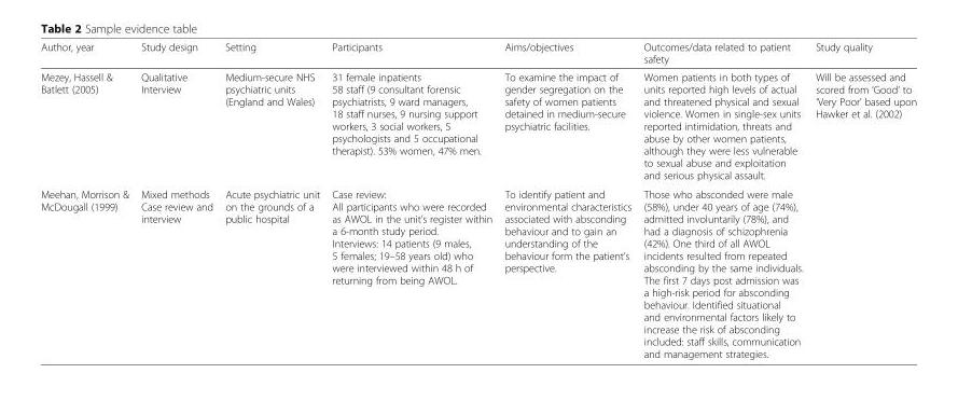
<table><thead><tr><td>Author, year</td><td>Study design</td><td>Setting</td><td>Participants</td><td>Aims/objectives</td><td>Outcomes/data related to patient safety</td><td>Study quality</td></tr></thead><tbody><tr><td>Mezey, Hassell &amp; Batlett (2005)</td><td>Qualitative Interview</td><td>Medium-secure NHS psychiatric units (England and Wales)</td><td>31 female inpatients 58 staff (9 consultant forensic psychiatrists, 9 ward managers, 18 staff nurses, 9 nursing support workers, 3 social workers, 5 psychologists and 5 occupational therapist). 53% women, 47% men.</td><td>To examine the impact of gender segregation on the safety of women patients detained in medium-secure psychiatric facilities.</td><td>Women patients in both types of units reported high levels of actual and threatened physical and sexual violence. Women in single-sex units reported intimidation, threats and abuse by other women patients, although they were less vulnerable to sexual abuse and exploitation and serious physical assault.</td><td>Will be assessed and scored from ‘Good’ to ‘Very Poor’ based upon Hawker et al. (2002)</td></tr><tr><td>Meehan, Morrison &amp; McDougall (1999)</td><td>Mixed methods Case review and interview</td><td>Acute psychiatric unit on the grounds of a public hospital</td><td>Case review: All participants who were recorded as AWOL in the unit’s register within a 6-month study period. Interviews: 14 patients (9 males, 5 females; 19–58 years old) who were interviewed within 48 h of returning from being AWOL.</td><td>To identify patient and environmental characteristics associated with absconding behaviour and to gain an understanding of the behaviour form the patient’s perspective.</td><td>Those who absconded were male (58%), under 40 years of age (74%), admitted involuntarily (78%), and had a diagnosis of schizophrenia (42%). One third of all AWOL incidents resulted from repeated absconding by the same individuals. The first 7 days post admission was a high-risk period for absconding behaviour. Identified situational and environmental factors likely to increase the risk of absconding included: staff skills, communication and management strategies.</td><td></td></tr></tbody></table>